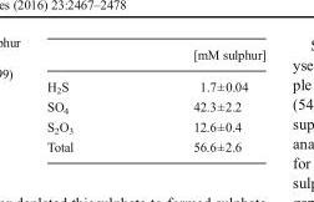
<table><thead><tr><td></td><td>[mM sulphur]</td></tr></thead><tbody><tr><td>H<sub>2</sub>S</td><td>1.7±0.04</td></tr><tr><td>SO<sub>4</sub></td><td>42.3±2.2</td></tr><tr><td>S<sub>2</sub>O<sub>3</sub></td><td>12.6±0.4</td></tr><tr><td>Total</td><td>56.6±2.6</td></tr></tbody></table>